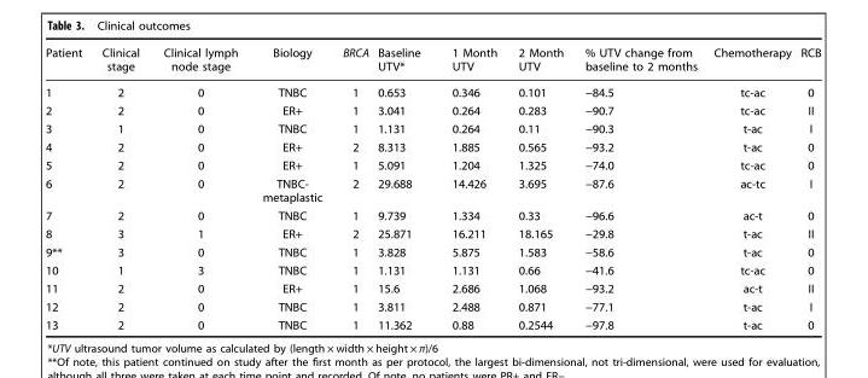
<table><thead><tr><td>Patient</td><td>Clinical stage</td><td>Clinical lymph node stage</td><td>Biology</td><td>BRCA</td><td>Baseline UTV*</td><td>1 Month UTV</td><td>2 Month UTV</td><td>% UTV change from baseline to 2 months</td><td>Chemotherapy</td><td>RCB</td></tr></thead><tbody><tr><td>1</td><td>2</td><td>0</td><td>TNBC</td><td>1</td><td>0.653</td><td>0.346</td><td>0.101</td><td>−84.5</td><td>tc-ac</td><td>0</td></tr><tr><td>2</td><td>2</td><td>0</td><td>ER+</td><td>1</td><td>3.041</td><td>0.264</td><td>0.283</td><td>−90.7</td><td>tc-ac</td><td>II</td></tr><tr><td>3</td><td>1</td><td>0</td><td>TNBC</td><td>1</td><td>1.131</td><td>0.264</td><td>0.11</td><td>−90.3</td><td>t-ac</td><td>I</td></tr><tr><td>4</td><td>2</td><td>0</td><td>ER+</td><td>2</td><td>8.313</td><td>1.885</td><td>0.565</td><td>−93.2</td><td>t-ac</td><td>0</td></tr><tr><td>5</td><td>2</td><td>0</td><td>ER+</td><td>1</td><td>5.091</td><td>1.204</td><td>1.325</td><td>−74.0</td><td>tc-ac</td><td>0</td></tr><tr><td>6</td><td>2</td><td>0</td><td>TNBC- metaplastic</td><td>2</td><td>29.688</td><td>14.426</td><td>3.695</td><td>−87.6</td><td>ac-tc</td><td>I</td></tr><tr><td>7</td><td>2</td><td>0</td><td>TNBC</td><td>1</td><td>9.739</td><td>1.334</td><td>0.33</td><td>−96.6</td><td>ac-t</td><td>0</td></tr><tr><td>8</td><td>3</td><td>1</td><td>ER+</td><td>2</td><td>25.871</td><td>16.211</td><td>18.165</td><td>−29.8</td><td>t-ac</td><td>II</td></tr><tr><td>9**</td><td>3</td><td>0</td><td>TNBC</td><td>1</td><td>3.828</td><td>5.875</td><td>1.583</td><td>−58.6</td><td>t-ac</td><td>0</td></tr><tr><td>10</td><td>1</td><td>3</td><td>TNBC</td><td>1</td><td>1.131</td><td>1.131</td><td>0.66</td><td>−41.6</td><td>tc-ac</td><td>0</td></tr><tr><td>11</td><td>2</td><td>0</td><td>ER+</td><td>1</td><td>15.6</td><td>2.686</td><td>1.068</td><td>−93.2</td><td>ac-t</td><td>II</td></tr><tr><td>12</td><td>2</td><td>0</td><td>TNBC</td><td>1</td><td>3.811</td><td>2.488</td><td>0.871</td><td>−77.1</td><td>t-ac</td><td>I</td></tr><tr><td>13</td><td>2</td><td>0</td><td>TNBC</td><td>1</td><td>11.362</td><td>0.88</td><td>0.2544</td><td>−97.8</td><td>t-ac</td><td>0</td></tr></tbody></table>